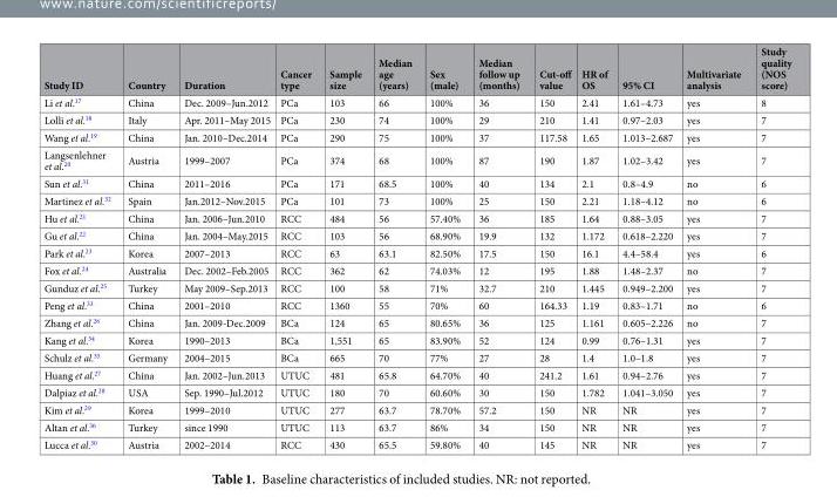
<table><thead><tr><td>Study ID</td><td>Country</td><td>Duration</td><td>Cancer type</td><td>Sample size</td><td>Median age (years)</td><td>Sex (male)</td><td>Median follow up (months)</td><td>Cut-off value</td><td>HR of OS</td><td>95% CI</td><td>Multivariate analysis</td><td>Study quality (NOS score)</td></tr></thead><tbody><tr><td>Li et al.<sup>17</sup></td><td>China</td><td>Dec. 2009–Jun.2012</td><td>PCa</td><td>103</td><td>66</td><td>100%</td><td>36</td><td>150</td><td>2.41</td><td>1.61–4.73</td><td>yes</td><td>8</td></tr><tr><td>Lolli et al.<sup>18</sup></td><td>Italy</td><td>Apr. 2011–May 2015</td><td>PCa</td><td>230</td><td>74</td><td>100%</td><td>29</td><td>210</td><td>1.41</td><td>0.97–2.03</td><td>yes</td><td>7</td></tr><tr><td>Wang et al.<sup>19</sup></td><td>China</td><td>Jan. 2010–Dec.2014</td><td>PCa</td><td>290</td><td>75</td><td>100%</td><td>37</td><td>117.58</td><td>1.65</td><td>1.013–2.687</td><td>yes</td><td>7</td></tr><tr><td>Langsenlehner et al.<sup>20</sup></td><td>Austria</td><td>1999–2007</td><td>PCa</td><td>374</td><td>68</td><td>100%</td><td>87</td><td>190</td><td>1.87</td><td>1.02–3.42</td><td>yes</td><td>7</td></tr><tr><td>Sun et al.<sup>31</sup></td><td>China</td><td>2011–2016</td><td>PCa</td><td>171</td><td>68.5</td><td>100%</td><td>40</td><td>134</td><td>2.1</td><td>0.8–4.9</td><td>no</td><td>6</td></tr><tr><td>Martinez et al.<sup>32</sup></td><td>Spain</td><td>Jan.2012–Nov.2015</td><td>PCa</td><td>101</td><td>73</td><td>100%</td><td>25</td><td>150</td><td>2.21</td><td>1.18–4.12</td><td>no</td><td>6</td></tr><tr><td>Hu et al.<sup>21</sup></td><td>China</td><td>Jan. 2006–Jun.2010</td><td>RCC</td><td>484</td><td>56</td><td>57.40%</td><td>36</td><td>185</td><td>1.64</td><td>0.88–3.05</td><td>yes</td><td>7</td></tr><tr><td>Gu et al.<sup>22</sup></td><td>China</td><td>Jan. 2004–May.2015</td><td>RCC</td><td>103</td><td>56</td><td>68.90%</td><td>19.9</td><td>132</td><td>1.172</td><td>0.618–2.220</td><td>yes</td><td>7</td></tr><tr><td>Park et al.<sup>23</sup></td><td>Korea</td><td>2007–2013</td><td>RCC</td><td>63</td><td>63.1</td><td>82.50%</td><td>17.5</td><td>150</td><td>16.1</td><td>4.4–58.4</td><td>yes</td><td>6</td></tr><tr><td>Fox et al.<sup>24</sup></td><td>Australia</td><td>Dec. 2002–Feb.2005</td><td>RCC</td><td>362</td><td>62</td><td>74.03%</td><td>12</td><td>195</td><td>1.88</td><td>1.48–2.37</td><td>no</td><td>7</td></tr><tr><td>Gunduz et al.<sup>25</sup></td><td>Turkey</td><td>May 2009–Sep.2013</td><td>RCC</td><td>100</td><td>58</td><td>71%</td><td>32.7</td><td>210</td><td>1.445</td><td>0.949–2.200</td><td>yes</td><td>7</td></tr><tr><td>Peng et al.<sup>33</sup></td><td>China</td><td>2001–2010</td><td>RCC</td><td>1360</td><td>55</td><td>70%</td><td>60</td><td>164.33</td><td>1.19</td><td>0.83–1.71</td><td>no</td><td>6</td></tr><tr><td>Zhang et al.<sup>26</sup></td><td>China</td><td>Jan. 2009-Dec.2009</td><td>BCa</td><td>124</td><td>65</td><td>80.65%</td><td>36</td><td>125</td><td>1.161</td><td>0.605–2.226</td><td>no</td><td>7</td></tr><tr><td>Kang et al.<sup>34</sup></td><td>Korea</td><td>1990–2013</td><td>BCa</td><td>1,551</td><td>65</td><td>83.90%</td><td>52</td><td>124</td><td>0.99</td><td>0.76–1.31</td><td>yes</td><td>7</td></tr><tr><td>Schulz et al.<sup>35</sup></td><td>Germany</td><td>2004–2015</td><td>BCa</td><td>665</td><td>70</td><td>77%</td><td>27</td><td>28</td><td>1.4</td><td>1.0–1.8</td><td>yes</td><td>7</td></tr><tr><td>Huang et al.<sup>27</sup></td><td>China</td><td>Jan. 2002–Jun.2013</td><td>UTUC</td><td>481</td><td>65.8</td><td>64.70%</td><td>40</td><td>241.2</td><td>1.61</td><td>0.94–2.76</td><td>yes</td><td>7</td></tr><tr><td>Dalpiaz et al.<sup>28</sup></td><td>USA</td><td>Sep. 1990–Jul.2012</td><td>UTUC</td><td>180</td><td>70</td><td>60.60%</td><td>30</td><td>150</td><td>1.782</td><td>1.041–3.050</td><td>yes</td><td>7</td></tr><tr><td>Kim et al.<sup>29</sup></td><td>Korea</td><td>1999–2010</td><td>UTUC</td><td>277</td><td>63.7</td><td>78.70%</td><td>57.2</td><td>150</td><td>NR</td><td>NR</td><td>yes</td><td>7</td></tr><tr><td>Altan et al.<sup>36</sup></td><td>Turkey</td><td>since 1990</td><td>UTUC</td><td>113</td><td>63.7</td><td>86%</td><td>34</td><td>150</td><td>NR</td><td>NR</td><td>yes</td><td>7</td></tr><tr><td>Lucca et al.<sup>30</sup></td><td>Austria</td><td>2002–2014</td><td>RCC</td><td>430</td><td>65.5</td><td>59.80%</td><td>40</td><td>145</td><td>NR</td><td>NR</td><td>yes</td><td>7</td></tr></tbody></table>